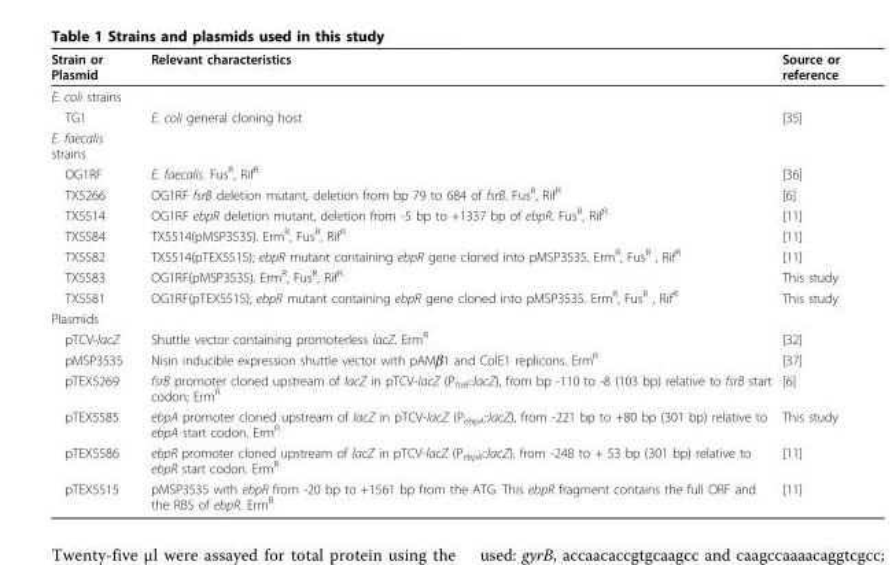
<table><thead><tr><td>Strain or Plasmid</td><td>Relevant characteristics</td><td>Source or reference</td></tr></thead><tbody><tr><td colspan="3">E. coli strains</td></tr><tr><td>TG1</td><td>E. coli general cloning host</td><td>[35]</td></tr><tr><td colspan="3">E. faecalis strains</td></tr><tr><td>OG1RF</td><td>E. faecalis. Fus<sup>R</sup>, Rif<sup>R</sup></td><td>[36]</td></tr><tr><td>TX5266</td><td>OG1RF fsrB deletion mutant, deletion from bp 79 to 684 of fsrB. Fus<sup>R</sup>, Rif<sup>R</sup></td><td>[6]</td></tr><tr><td>TX5514</td><td>OG1RF ebpR deletion mutant, deletion from -5 bp to +1337 bp of ebpR. Fus<sup>R</sup>, Rif<sup>R</sup></td><td>[11]</td></tr><tr><td>TX5584</td><td>TX5514(pMSP3535). Erm<sup>R</sup>, Fus<sup>R</sup>, Rif<sup>R</sup></td><td>[11]</td></tr><tr><td>TX5582</td><td>TX5514(pTEX5515); ebpR mutant containing ebpR gene cloned into pMSP3535. Erm<sup>R</sup>, Fus<sup>R</sup> , Rif<sup>R</sup></td><td>[11]</td></tr><tr><td>TX5583</td><td>OG1RF(pMSP3535). Erm<sup>R</sup>, Fus<sup>R</sup>, Rif<sup>R</sup></td><td>This study</td></tr><tr><td>TX5581</td><td>OG1RF(pTEX5515); ebpR mutant containing ebpR gene cloned into pMSP3535. Erm<sup>R</sup>, Fus<sup>R</sup> , Rif<sup>R</sup></td><td>This study</td></tr><tr><td colspan="3">Plasmids</td></tr><tr><td>pTCV-lacZ</td><td>Shuttle vector containing promoterless lacZ. Erm<sup>R</sup></td><td>[32]</td></tr><tr><td>pMSP3535</td><td>Nisin inducible expression shuttle vector with pAMβ1 and ColE1 replicons. Erm<sup>R</sup></td><td>[37]</td></tr><tr><td>pTEX5269</td><td>fsrB promoter cloned upstream of lacZ in pTCV-lacZ (P<sub>fsrB</sub>::lacZ), from bp -110 to -8 (103 bp) relative to fsrB start codon; Erm<sup>R</sup></td><td>[6]</td></tr><tr><td>pTEX5585</td><td>ebpA promoter cloned upstream of lacZ in pTCV-lacZ (P<sub>ebpA</sub>::lacZ), from -221 bp to +80 bp (301 bp) relative to ebpA start codon. Erm<sup>R</sup></td><td>This study</td></tr><tr><td>pTEX5586</td><td>ebpR promoter cloned upstream of lacZ in pTCV-lacZ (P<sub>ebpR</sub>::lacZ), from -248 to + 53 bp (301 bp) relative to ebpR start codon. Erm<sup>R</sup></td><td>[11]</td></tr><tr><td>pTEX5515</td><td>pMSP3535 with ebpR from -20 bp to +1561 bp from the ATG. This ebpR fragment contains the full ORF and the RBS of ebpR. Erm<sup>R</sup></td><td>[11]</td></tr></tbody></table>